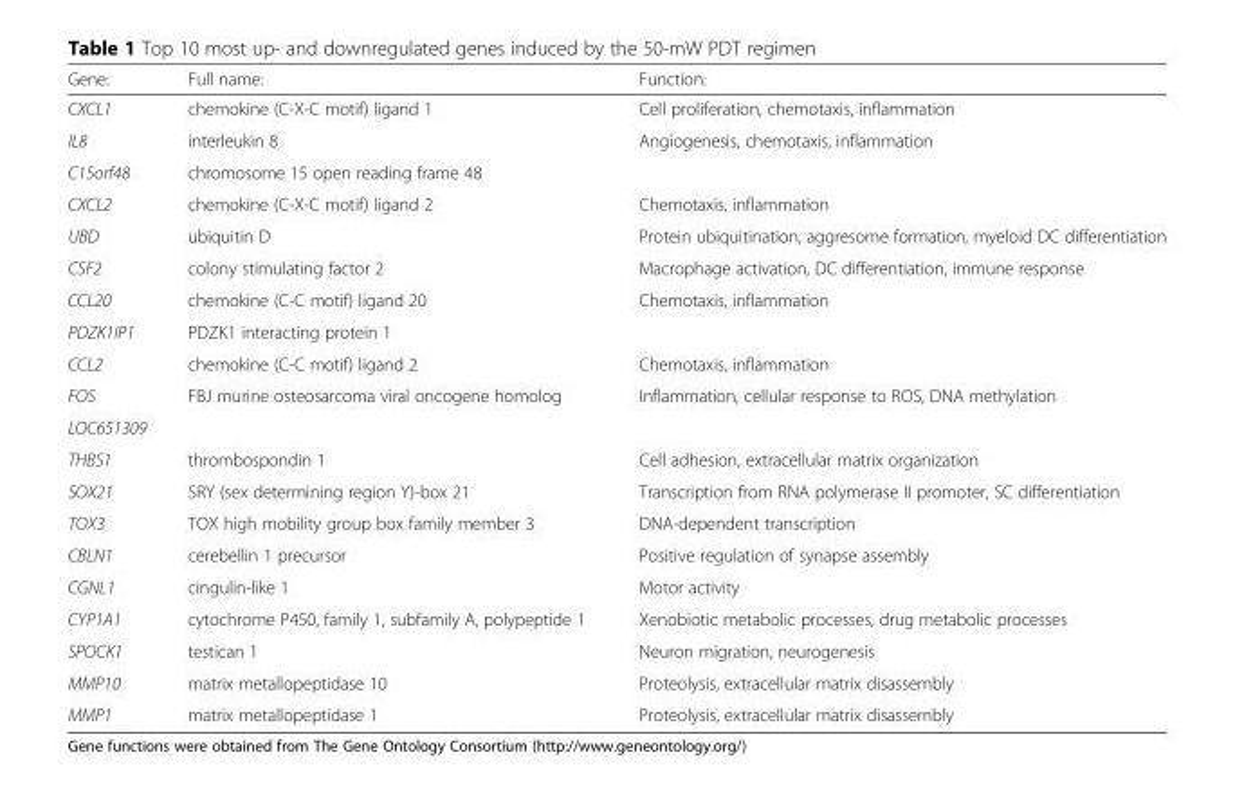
<table><thead><tr><td>Gene:</td><td>Full name:</td><td>Function:</td></tr></thead><tbody><tr><td>CXCL1</td><td>chemokine (C-X-C motif) ligand 1</td><td>Cell proliferation, chemotaxis, inflammation</td></tr><tr><td>IL8</td><td>interleukin 8</td><td>Angiogenesis, chemotaxis, inflammation</td></tr><tr><td>C15orf48</td><td>chromosome 15 open reading frame 48</td><td></td></tr><tr><td>CXCL2</td><td>chemokine (C-X-C motif) ligand 2</td><td>Chemotaxis, inflammation</td></tr><tr><td>UBD</td><td>ubiquitin D</td><td>Protein ubiquitination, aggresome formation, myeloid DC differentiation</td></tr><tr><td>CSF2</td><td>colony stimulating factor 2</td><td>Macrophage activation, DC differentiation, immune response</td></tr><tr><td>CCL20</td><td>chemokine (C-C motif) ligand 20</td><td>Chemotaxis, inflammation</td></tr><tr><td>PDZK1IP1</td><td>PDZK1 interacting protein 1</td><td></td></tr><tr><td>CCL2</td><td>chemokine (C-C motif) ligand 2</td><td>Chemotaxis, inflammation</td></tr><tr><td>FOS</td><td>FBJ murine osteosarcoma viral oncogene homolog</td><td>Inflammation, cellular response to ROS, DNA methylation</td></tr><tr><td colspan="3">LOC651309</td></tr><tr><td>THBS1</td><td>thrombospondin 1</td><td>Cell adhesion, extracellular matrix organization</td></tr><tr><td>SOX21</td><td>SRY (sex determining region Y)-box 21</td><td>Transcription from RNA polymerase II promoter, SC differentiation</td></tr><tr><td>TOX3</td><td>TOX high mobility group box family member 3</td><td>DNA-dependent transcription</td></tr><tr><td>CBLN1</td><td>cerebellin 1 precursor</td><td>Positive regulation of synapse assembly</td></tr><tr><td>CGNL1</td><td>cingulin-like 1</td><td>Motor activity</td></tr><tr><td>CYP1A1</td><td>cytochrome P450, family 1, subfamily A, polypeptide 1</td><td>Xenobiotic metabolic processes, drug metabolic processes</td></tr><tr><td>SPOCK1</td><td>testican 1</td><td>Neuron migration, neurogenesis</td></tr><tr><td>MMP10</td><td>matrix metallopeptidase 10</td><td>Proteolysis, extracellular matrix disassembly</td></tr><tr><td>MMP1</td><td>matrix metallopeptidase 1</td><td>Proteolysis, extracellular matrix disassembly</td></tr></tbody></table>